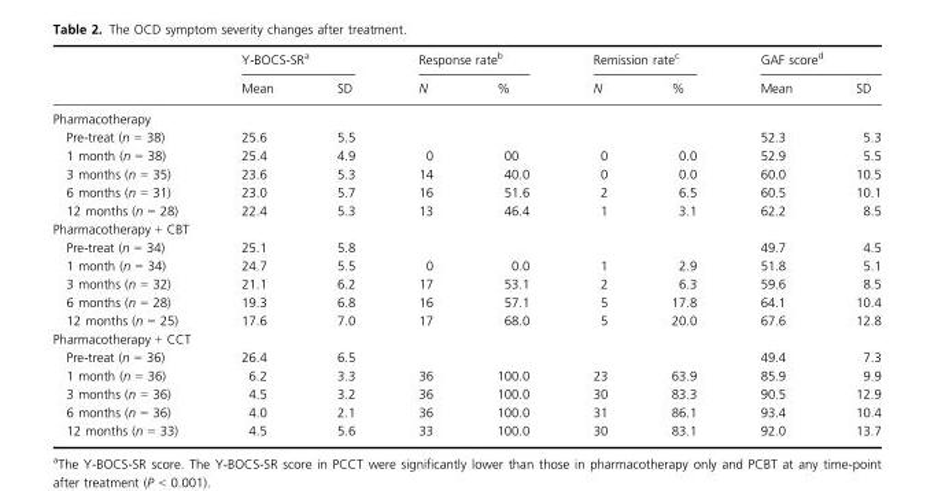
<table><thead><tr><td rowspan="2"></td><td colspan="2">Y-BOCS-SRa</td><td colspan="2">Response rateb</td><td colspan="2">Remission ratec</td><td colspan="2">GAF score<sup>d</sup></td></tr><tr><td>Mean</td><td>SD</td><td>N</td><td>%</td><td>N</td><td>%</td><td>Mean</td><td>SD</td></tr></thead><tbody><tr><td colspan="9">Pharmacotherapy</td></tr><tr><td>Pre-treat (n = 38)</td><td>25.6</td><td>5.5</td><td></td><td></td><td></td><td></td><td>52.3</td><td>5.3</td></tr><tr><td>1 month (n = 38)</td><td>25.4</td><td>4.9</td><td>0</td><td>00</td><td>0</td><td>0.0</td><td>52.9</td><td>5.5</td></tr><tr><td>3 months (n = 35)</td><td>23.6</td><td>5.3</td><td>14</td><td>40.0</td><td>0</td><td>0.0</td><td>60.0</td><td>10.5</td></tr><tr><td>6 months (n = 31)</td><td>23.0</td><td>5.7</td><td>16</td><td>51.6</td><td>2</td><td>6.5</td><td>60.5</td><td>10.1</td></tr><tr><td>12 months (n = 28)</td><td>22.4</td><td>5.3</td><td>13</td><td>46.4</td><td>1</td><td>3.1</td><td>62.2</td><td>8.5</td></tr><tr><td colspan="9">Pharmacotherapy + CBT</td></tr><tr><td>Pre-treat (n = 34)</td><td>25.1</td><td>5.8</td><td></td><td></td><td></td><td></td><td>49.7</td><td>4.5</td></tr><tr><td>1 month (n = 34)</td><td>24.7</td><td>5.5</td><td>0</td><td>0.0</td><td>1</td><td>2.9</td><td>51.8</td><td>5.1</td></tr><tr><td>3 months (n = 32)</td><td>21.1</td><td>6.2</td><td>17</td><td>53.1</td><td>2</td><td>6.3</td><td>59.6</td><td>8.5</td></tr><tr><td>6 months (n = 28)</td><td>19.3</td><td>6.8</td><td>16</td><td>57.1</td><td>5</td><td>17.8</td><td>64.1</td><td>10.4</td></tr><tr><td>12 months (n = 25)</td><td>17.6</td><td>7.0</td><td>17</td><td>68.0</td><td>5</td><td>20.0</td><td>67.6</td><td>12.8</td></tr><tr><td colspan="9">Pharmacotherapy + CCT</td></tr><tr><td>Pre-treat (n = 36)</td><td>26.4</td><td>6.5</td><td></td><td></td><td></td><td></td><td>49.4</td><td>7.3</td></tr><tr><td>1 month (n = 36)</td><td>6.2</td><td>3.3</td><td>36</td><td>100.0</td><td>23</td><td>63.9</td><td>85.9</td><td>9.9</td></tr><tr><td>3 months (n = 36)</td><td>4.5</td><td>3.2</td><td>36</td><td>100.0</td><td>30</td><td>83.3</td><td>90.5</td><td>12.9</td></tr><tr><td>6 months (n = 36)</td><td>4.0</td><td>2.1</td><td>36</td><td>100.0</td><td>31</td><td>86.1</td><td>93.4</td><td>10.4</td></tr><tr><td>12 months (n = 33)</td><td>4.5</td><td>5.6</td><td>33</td><td>100.0</td><td>30</td><td>83.1</td><td>92.0</td><td>13.7</td></tr></tbody></table>